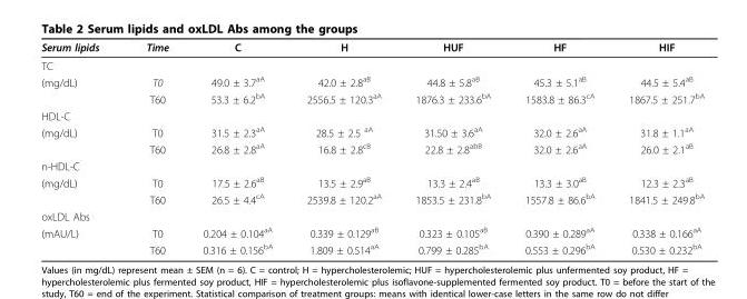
<table><thead><tr><td>Serum lipids</td><td>Time</td><td>C</td><td>H</td><td>HUF</td><td>HF</td><td>HIF</td></tr></thead><tbody><tr><td colspan="7">TC</td></tr><tr><td rowspan="2">(mg/dL)</td><td>T0</td><td>49.0 ± 3.7<sup>aA</sup></td><td>42.0 ± 2.8<sup>aB</sup></td><td>44.8 ± 5.8<sup>aB</sup></td><td>45.3 ± 5.1<sup>aB</sup></td><td>44.5 ± 5.4<sup>aB</sup></td></tr><tr><td>T60</td><td>53.3 ± 6.2<sup>bA</sup></td><td>2556.5 ± 120.3<sup>aA</sup></td><td>1876.3 ± 233.6<sup>bA</sup></td><td>1583.8 ± 86.3<sup>cA</sup></td><td>1867.5 ± 251.7<sup>bA</sup></td></tr><tr><td colspan="7">HDL-C</td></tr><tr><td rowspan="2">(mg/dL)</td><td>T0</td><td>31.5 ± 2.3<sup>aA</sup></td><td>28.5 ± 2.5 <sup>aA</sup></td><td>31.50 ± 3.6<sup>aA</sup></td><td>32.0 ± 2.6<sup>aA</sup></td><td>31.8 ± 1.1<sup>aA</sup></td></tr><tr><td>T60</td><td>26.8 ± 2.8<sup>aA</sup></td><td>16.8 ± 2.8<sup>cB</sup></td><td>22.8 ± 2.8<sup>abB</sup></td><td>32.0 ± 2.6<sup>aA</sup></td><td>26.0 ± 2.1<sup>aB</sup></td></tr><tr><td colspan="7">n-HDL-C</td></tr><tr><td rowspan="2">(mg/dL)</td><td>T0</td><td>17.5 ± 2.6<sup>aB</sup></td><td>13.5 ± 2.9<sup>aB</sup></td><td>13.3 ± 2.4<sup>aB</sup></td><td>13.3 ± 3.0<sup>aB</sup></td><td>12.3 ± 2.3<sup>aB</sup></td></tr><tr><td>T60</td><td>26.5 ± 4.4<sup>cA</sup></td><td>2539.8 ± 120.2<sup>aA</sup></td><td>1853.5 ± 231.8<sup>bA</sup></td><td>1557.8 ± 86.6<sup>bA</sup></td><td>1841.5 ± 249.8<sup>bA</sup></td></tr><tr><td colspan="7">oxLDL Abs</td></tr><tr><td rowspan="2">(mAU/L)</td><td>T0</td><td>0.204 ± 0.104<sup>aA</sup></td><td>0.339 ± 0.129<sup>aB</sup></td><td>0.323 ± 0.105<sup>aB</sup></td><td>0.390 ± 0.289<sup>aA</sup></td><td>0.338 ± 0.166<sup>aA</sup></td></tr><tr><td>T60</td><td>0.316 ± 0.156<sup>bA</sup></td><td>1.809 ± 0.514<sup>aA</sup></td><td>0.799 ± 0.285<sup>bA</sup></td><td>0.553 ± 0.296<sup>bA</sup></td><td>0.530 ± 0.232<sup>bA</sup></td></tr></tbody></table>